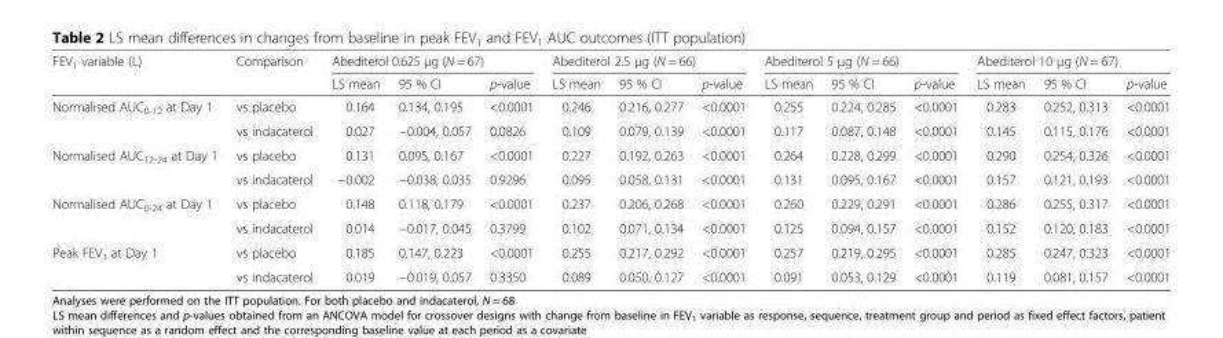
<table><thead><tr><td rowspan="2">FEV<sub>1</sub> variable (L)</td><td rowspan="2">Comparison</td><td colspan="3">Abediterol 0.625 μg (N = 67)</td><td colspan="3">Abediterol 2.5 μg (N = 66)</td><td colspan="3">Abediterol 5 μg (N = 66)</td><td colspan="3">Abediterol 10 μg (N = 67)</td></tr><tr><td>LS mean</td><td>95 % CI</td><td>p-value</td><td>LS mean</td><td>95 % CI</td><td>p-value</td><td>LS mean</td><td>95 % CI</td><td>p-value</td><td>LS mean</td><td>95 % CI</td><td>p-value</td></tr></thead><tbody><tr><td rowspan="2">Normalised AUC<sub>0-12</sub> at Day 1</td><td>vs placebo</td><td>0.164</td><td>0.134, 0.195</td><td>&lt;0.0001</td><td>0.246</td><td>0.216, 0.277</td><td>&lt;0.0001</td><td>0.255</td><td>0.224, 0.285</td><td>&lt;0.0001</td><td>0.283</td><td>0.252, 0.313</td><td>&lt;0.0001</td></tr><tr><td>vs indacaterol</td><td>0.027</td><td>−0.004, 0.057</td><td>0.0826</td><td>0.109</td><td>0.079, 0.139</td><td>&lt;0.0001</td><td>0.117</td><td>0.087, 0.148</td><td>&lt;0.0001</td><td>0.145</td><td>0.115, 0.176</td><td>&lt;0.0001</td></tr><tr><td rowspan="2">Normalised AUC<sub>12-24</sub> at Day 1</td><td>vs placebo</td><td>0.131</td><td>0.095, 0.167</td><td>&lt;0.0001</td><td>0.227</td><td>0.192, 0.263</td><td>&lt;0.0001</td><td>0.264</td><td>0.228, 0.299</td><td>&lt;0.0001</td><td>0.290</td><td>0.254, 0.326</td><td>&lt;0.0001</td></tr><tr><td>vs indacaterol</td><td>−0.002</td><td>−0.038, 0.035</td><td>0.9296</td><td>0.095</td><td>0.058, 0.131</td><td>&lt;0.0001</td><td>0.131</td><td>0.095, 0.167</td><td>&lt;0.0001</td><td>0.157</td><td>0.121, 0.193</td><td>&lt;0.0001</td></tr><tr><td rowspan="2">Normalised AUC<sub>0-24</sub> at Day 1</td><td>vs placebo</td><td>0.148</td><td>0.118, 0.179</td><td>&lt;0.0001</td><td>0.237</td><td>0.206, 0.268</td><td>&lt;0.0001</td><td>0.260</td><td>0.229, 0.291</td><td>&lt;0.0001</td><td>0.286</td><td>0.255, 0.317</td><td>&lt;0.0001</td></tr><tr><td>vs indacaterol</td><td>0.014</td><td>−0.017, 0.045</td><td>0.3799</td><td>0.102</td><td>0.071, 0.134</td><td>&lt;0.0001</td><td>0.125</td><td>0.094, 0.157</td><td>&lt;0.0001</td><td>0.152</td><td>0.120, 0.183</td><td>&lt;0.0001</td></tr><tr><td rowspan="2">Peak FEV<sub>1</sub> at Day 1</td><td>vs placebo</td><td>0.185</td><td>0.147, 0.223</td><td>&lt;0.0001</td><td>0.255</td><td>0.217, 0.292</td><td>&lt;0.0001</td><td>0.257</td><td>0.219, 0.295</td><td>&lt;0.0001</td><td>0.285</td><td>0.247, 0.323</td><td>&lt;0.0001</td></tr><tr><td>vs indacaterol</td><td>0.019</td><td>−0.019, 0.057</td><td>0.3350</td><td>0.089</td><td>0.050, 0.127</td><td>&lt;0.0001</td><td>0.091</td><td>0.053, 0.129</td><td>&lt;0.0001</td><td>0.119</td><td>0.081, 0.157</td><td>&lt;0.0001</td></tr></tbody></table>